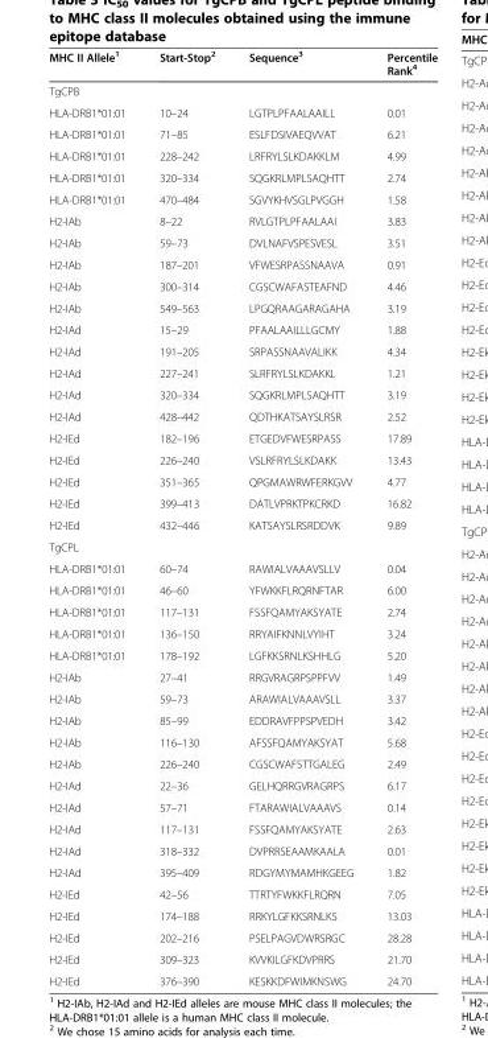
<table><thead><tr><td>MHC II Allele<sup>1</sup></td><td>Start-Stop<sup>2</sup></td><td>Sequence<sup>3</sup></td><td>Percentile Rank<sup>4</sup></td></tr></thead><tbody><tr><td colspan="4">TgCPB</td></tr><tr><td>HLA-DRB1*01:01</td><td>10–24</td><td>LGTPLPFAALAAILL</td><td>0.01</td></tr><tr><td>HLA-DRB1*01:01</td><td>71–85</td><td>ESLFDSIVAEQVVAT</td><td>6.21</td></tr><tr><td>HLA-DRB1*01:01</td><td>228–242</td><td>LRFRYLSLKDAKKLM</td><td>4.99</td></tr><tr><td>HLA-DRB1*01:01</td><td>320–334</td><td>SQGKRLMPLSAQHTT</td><td>2.74</td></tr><tr><td>HLA-DRB1*01:01</td><td>470–484</td><td>SGVYKHVSGLPVGGH</td><td>1.58</td></tr><tr><td>H2-IAb</td><td>8–22</td><td>RVLGTPLPFAALAAI</td><td>3.83</td></tr><tr><td>H2-IAb</td><td>59–73</td><td>DVLNAFVSPESVESL</td><td>3.51</td></tr><tr><td>H2-IAb</td><td>187–201</td><td>VFWESRPASSNAAVA</td><td>0.91</td></tr><tr><td>H2-IAb</td><td>300–314</td><td>CGSCWAFASTEAFND</td><td>4.46</td></tr><tr><td>H2-IAb</td><td>549–563</td><td>LPGQRAAGARAGAHA</td><td>3.19</td></tr><tr><td>H2-IAd</td><td>15–29</td><td>PFAALAAILLLGCMY</td><td>1.88</td></tr><tr><td>H2-IAd</td><td>191–205</td><td>SRPASSNAAVALIKK</td><td>4.34</td></tr><tr><td>H2-IAd</td><td>227–241</td><td>SLRFRYLSLKDAKKL</td><td>1.21</td></tr><tr><td>H2-IAd</td><td>320–334</td><td>SQGKRLMPLSAQHTT</td><td>3.19</td></tr><tr><td>H2-IAd</td><td>428–442</td><td>QDTHKATSAYSLRSR</td><td>2.52</td></tr><tr><td>H2-IEd</td><td>182–196</td><td>ETGEDVFWESRPASS</td><td>17.89</td></tr><tr><td>H2-IEd</td><td>226–240</td><td>VSLRFRYLSLKDAKK</td><td>13.43</td></tr><tr><td>H2-IEd</td><td>351–365</td><td>QPGMAWRWFERKGVV</td><td>4.77</td></tr><tr><td>H2-IEd</td><td>399–413</td><td>DATLVPRKTPKCRKD</td><td>16.82</td></tr><tr><td>H2-IEd</td><td>432–446</td><td>KATSAYSLRSRDDVK</td><td>9.89</td></tr><tr><td colspan="4">TgCPL</td></tr><tr><td>HLA-DRB1*01:01</td><td>60–74</td><td>RAWIALVAAAVSLLV</td><td>0.04</td></tr><tr><td>HLA-DRB1*01:01</td><td>46–60</td><td>YFWKKFLRQRNFTAR</td><td>6.00</td></tr><tr><td>HLA-DRB1*01:01</td><td>117–131</td><td>FSSFQAMYAKSYATE</td><td>2.74</td></tr><tr><td>HLA-DRB1*01:01</td><td>136–150</td><td>RRYAIFKNNLVYIHT</td><td>3.24</td></tr><tr><td>HLA-DRB1*01:01</td><td>178–192</td><td>LGFKKSRNLKSHHLG</td><td>5.20</td></tr><tr><td>H2-IAb</td><td>27–41</td><td>RRGVRAGRPSPPFVV</td><td>1.49</td></tr><tr><td>H2-IAb</td><td>59–73</td><td>ARAWIALVAAAVSLL</td><td>3.37</td></tr><tr><td>H2-IAb</td><td>85–99</td><td>EDDRAVFPPSPVEDH</td><td>3.42</td></tr><tr><td>H2-IAb</td><td>116–130</td><td>AFSSFQAMYAKSYAT</td><td>5.68</td></tr><tr><td>H2-IAb</td><td>226–240</td><td>CGSCWAFSTTGALEG</td><td>2.49</td></tr><tr><td>H2-IAd</td><td>22–36</td><td>GELHQRRGVRAGRPS</td><td>6.17</td></tr><tr><td>H2-IAd</td><td>57–71</td><td>FTARAWIALVAAAVS</td><td>0.14</td></tr><tr><td>H2-IAd</td><td>117–131</td><td>FSSFQAMYAKSYATE</td><td>2.63</td></tr><tr><td>H2-IAd</td><td>318–332</td><td>DVPRRSEAAMKAALA</td><td>0.01</td></tr><tr><td>H2-IAd</td><td>395–409</td><td>RDGYMYMAMHKGEEG</td><td>1.82</td></tr><tr><td>H2-IEd</td><td>42–56</td><td>TTRTYFWKKFLRQRN</td><td>7.05</td></tr><tr><td>H2-IEd</td><td>174–188</td><td>RRKYLGFKKSRNLKS</td><td>13.03</td></tr><tr><td>H2-IEd</td><td>202–216</td><td>PSELPAGVDWRSRGC</td><td>28.28</td></tr><tr><td>H2-IEd</td><td>309–323</td><td>KVVKILGFKDVPRRS</td><td>21.70</td></tr><tr><td>H2-IEd</td><td>376–390</td><td>KESKKDFWIMKNSWG</td><td>24.70</td></tr></tbody></table>